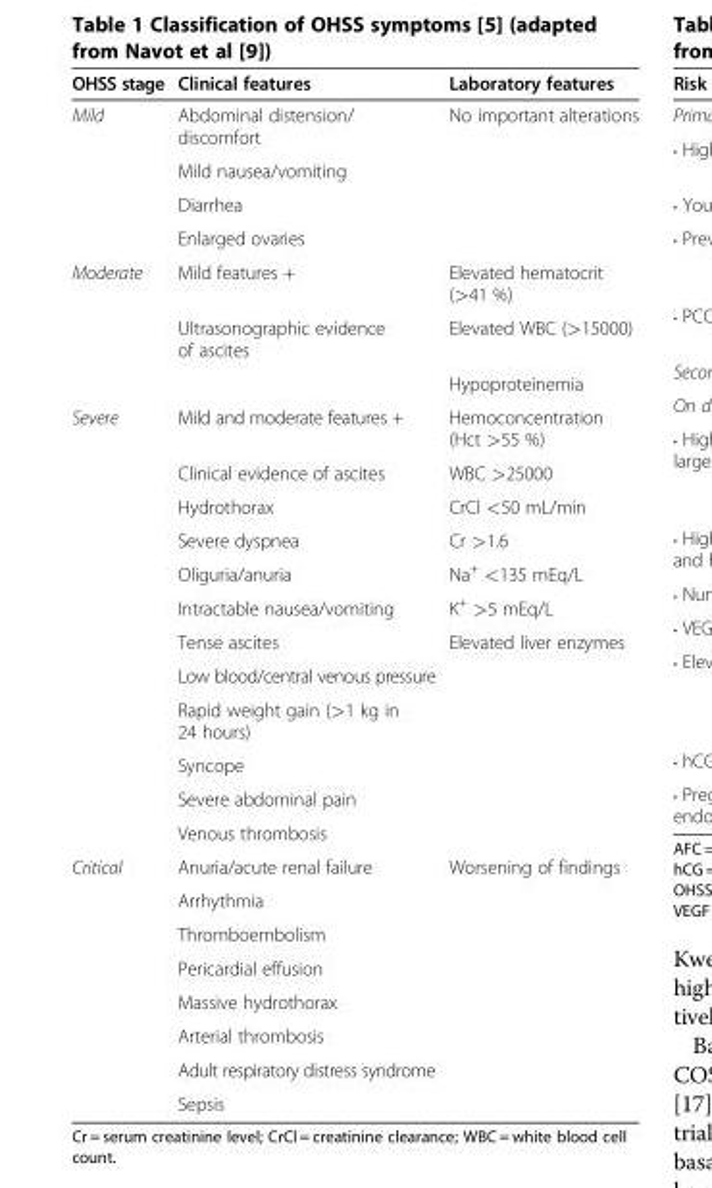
<table><thead><tr><td>OHSS stage</td><td>Clinical features</td><td>Laboratory features</td></tr></thead><tbody><tr><td rowspan="4">Mild</td><td>Abdominal distension/ discomfort</td><td rowspan="4">No important alterations</td></tr><tr><td>Mild nausea/vomiting</td></tr><tr><td>Diarrhea</td></tr><tr><td>Enlarged ovaries</td></tr><tr><td rowspan="3">Moderate</td><td>Mild features +</td><td>Elevated hematocrit (&gt;41 %)</td></tr><tr><td>Ultrasonographic evidence of ascites</td><td>Elevated WBC (&gt;15000)</td></tr><tr><td></td><td>Hypoproteinemia</td></tr><tr><td rowspan="12">Severe</td><td>Mild and moderate features +</td><td>Hemoconcentration (Hct &gt;55 %)</td></tr><tr><td>Clinical evidence of ascites</td><td>WBC &gt;25000</td></tr><tr><td>Hydrothorax</td><td>CrCl &lt;50 mL/min</td></tr><tr><td>Severe dyspnea</td><td>Cr &gt;1.6</td></tr><tr><td>Oliguria/anuria</td><td>Na<sup>+</sup> &lt;135 mEq/L</td></tr><tr><td>Intractable nausea/vomiting</td><td>K<sup>+</sup> &gt;5 mEq/L</td></tr><tr><td>Tense ascites</td><td>Elevated liver enzymes</td></tr><tr><td>Low blood/central venous pressure</td><td></td></tr><tr><td>Rapid weight gain (&gt;1 kg in 24 hours)</td><td></td></tr><tr><td>Syncope</td><td></td></tr><tr><td>Severe abdominal pain</td><td></td></tr><tr><td>Venous thrombosis</td><td></td></tr><tr><td rowspan="8">Critical</td><td>Anuria/acute renal failure</td><td rowspan="8">Worsening of findings</td></tr><tr><td>Arrhythmia</td></tr><tr><td>Thromboembolism</td></tr><tr><td>Pericardial effusion</td></tr><tr><td>Massive hydrothorax</td></tr><tr><td>Arterial thrombosis</td></tr><tr><td>Adult respiratory distress syndrome</td></tr><tr><td>Sepsis</td></tr></tbody></table>